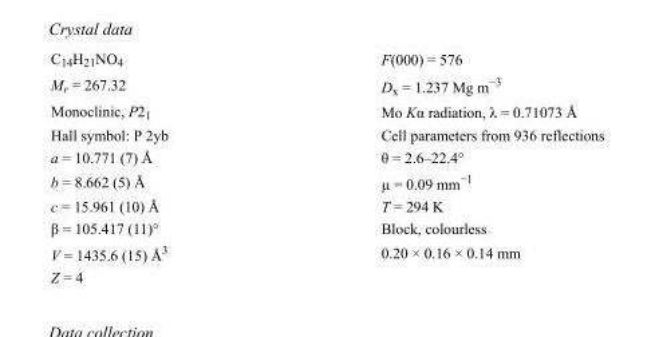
<table><tbody><tr><td>C<sub>14</sub>H<sub>21</sub>NO<sub>4</sub></td><td>F(000) = 576</td></tr><tr><td>M<sub>r</sub> = 267.32</td><td>D<sub>x</sub> = 1.237 Mg m<sup>−3</sup></td></tr><tr><td>Monoclinic, P2<sub>1</sub></td><td>Mo Kα radiation, λ = 0.71073 Å</td></tr><tr><td>Hall symbol: P 2yb</td><td>Cell parameters from 936 reflections</td></tr><tr><td>a = 10.771 (7) Å</td><td>θ = 2.6–22.4°</td></tr><tr><td>b = 8.662 (5) Å</td><td>µ = 0.09 mm<sup>−1</sup></td></tr><tr><td>c = 15.961 (10) Å</td><td>T = 294 K</td></tr><tr><td>β = 105.417 (11)°</td><td>Block, colourless</td></tr><tr><td>V = 1435.6 (15) Å<sup>3</sup></td><td>0.20 × 0.16 × 0.14 mm</td></tr><tr><td>Z = 4</td><td></td></tr></tbody></table>